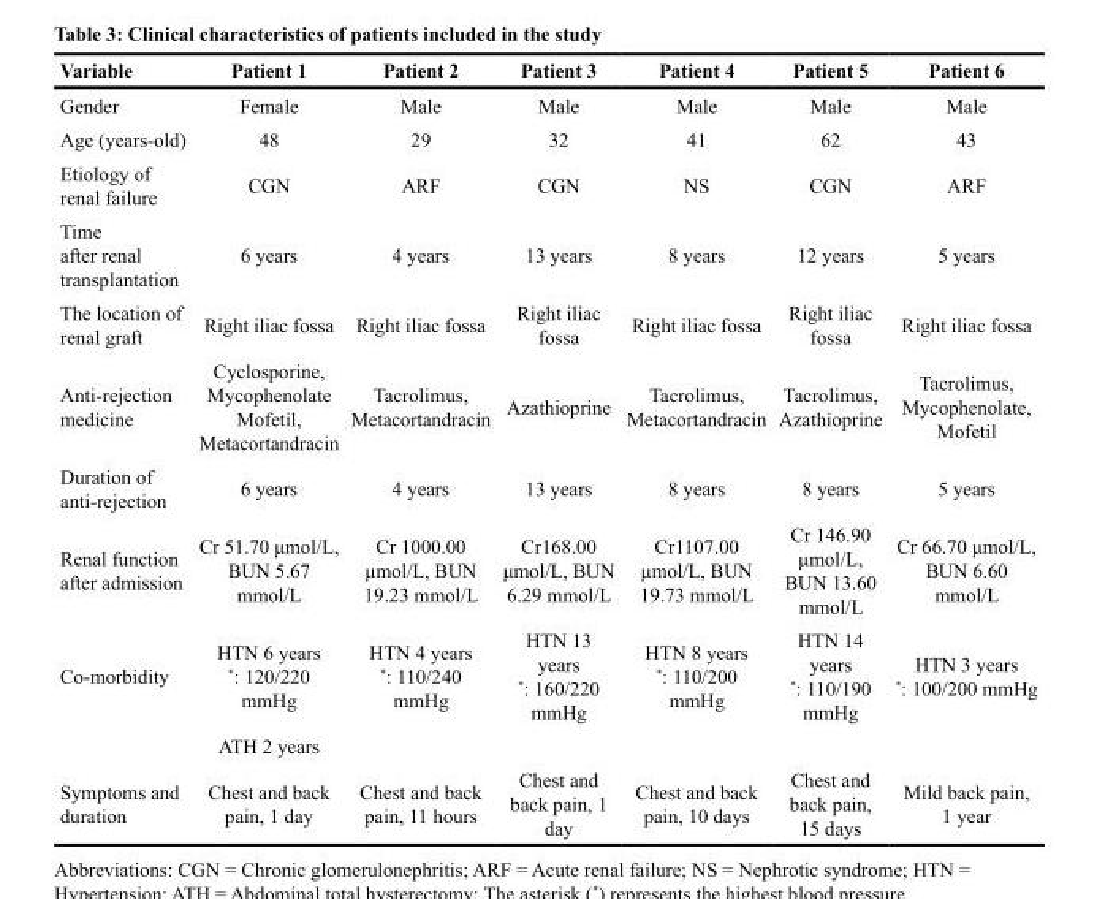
<table><thead><tr><td>Variable</td><td>Patient 1</td><td>Patient 2</td><td>Patient 3</td><td>Patient 4</td><td>Patient 5</td><td>Patient 6</td></tr></thead><tbody><tr><td>Gender</td><td>Female</td><td>Male</td><td>Male</td><td>Male</td><td>Male</td><td>Male</td></tr><tr><td>Age (years-old)</td><td>48</td><td>29</td><td>32</td><td>41</td><td>62</td><td>43</td></tr><tr><td>Etiology of renal failure</td><td>CGN</td><td>ARF</td><td>CGN</td><td>NS</td><td>CGN</td><td>ARF</td></tr><tr><td>Time after renal transplantation</td><td>6 years</td><td>4 years</td><td>13 years</td><td>8 years</td><td>12 years</td><td>5 years</td></tr><tr><td>The location of renal graft</td><td>Right iliac fossa</td><td>Right iliac fossa</td><td>Right iliac fossa</td><td>Right iliac fossa</td><td>Right iliac fossa</td><td>Right iliac fossa</td></tr><tr><td>Anti-rejection medicine</td><td>Cyclosporine, Mycophenolate Mofetil, Metacortandracin</td><td>Tacrolimus, Metacortandracin</td><td>Azathioprine</td><td>Tacrolimus, Metacortandracin</td><td>Tacrolimus, Azathioprine</td><td>Tacrolimus, Mycophenolate, Mofetil</td></tr><tr><td>Duration of anti-rejection</td><td>6 years</td><td>4 years</td><td>13 years</td><td>8 years</td><td>8 years</td><td>5 years</td></tr><tr><td>Renal function after admission</td><td>Cr 51.70 μmol/L, BUN 5.67 mmol/L</td><td>Cr 1000.00 μmol/L, BUN 19.23 mmol/L</td><td>Cr168.00 μmol/L, BUN 6.29 mmol/L</td><td>Cr1107.00 μmol/L, BUN 19.73 mmol/L</td><td>Cr 146.90 μmol/L, BUN 13.60 mmol/L</td><td>Cr 66.70 μmol/L, BUN 6.60 mmol/L</td></tr><tr><td rowspan="2">Co-morbidity</td><td>HTN 6 years *: 120/220 mmHg</td><td>HTN 4 years *: 110/240 mmHg</td><td>HTN 13 years *: 160/220 mmHg</td><td>HTN 8 years *: 110/200 mmHg</td><td>HTN 14 years *: 110/190 mmHg</td><td>HTN 3 years *: 100/200 mmHg</td></tr><tr><td>ATH 2 years</td><td></td><td></td><td></td><td></td><td></td></tr><tr><td>Symptoms and duration</td><td>Chest and back pain, 1 day</td><td>Chest and back pain, 11 hours</td><td>Chest and back pain, 1 day</td><td>Chest and back pain, 10 days</td><td>Chest and back pain, 15 days</td><td>Mild back pain, 1 year</td></tr></tbody></table>